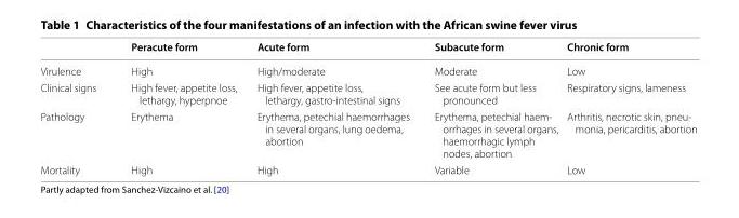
<table><thead><tr><td></td><td>Peracute form</td><td>Acute form</td><td>Subacute form</td><td>Chronic form</td></tr></thead><tbody><tr><td>Virulence</td><td>High</td><td>High/moderate</td><td>Moderate</td><td>Low</td></tr><tr><td>Clinical signs</td><td>High fever, appetite loss, lethargy, hyperpnoe</td><td>High fever, appetite loss, lethargy, gastro-intestinal signs</td><td>See acute form but less pronounced</td><td>Respiratory signs, lameness</td></tr><tr><td>Pathology</td><td>Erythema</td><td>Erythema, petechial haemorrhages in several organs, lung oedema, abortion</td><td>Erythema, petechial haem- orrhages in several organs, haemorrhagic lymph nodes, abortion</td><td>Arthritis, necrotic skin, pneu- monia, pericarditis, abortion</td></tr><tr><td>Mortality</td><td>High</td><td>High</td><td>Variable</td><td>Low</td></tr></tbody></table>